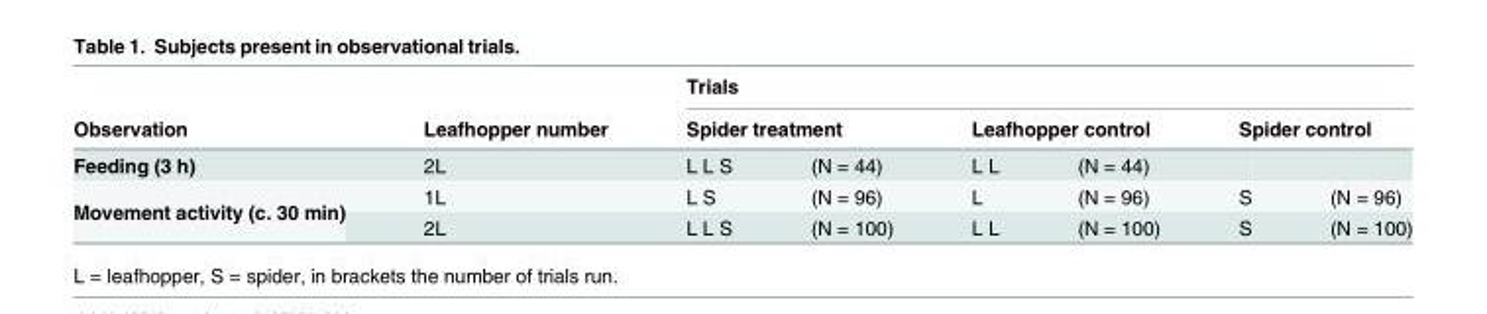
<table><thead><tr><td rowspan="3">Observation Feeding (3 h)</td><td rowspan="3">Leafhopper number 2L</td><td colspan="6">Trials</td></tr><tr><td colspan="2">Spider treatment</td><td colspan="2">Leafhopper control</td><td colspan="2">Spider control</td></tr><tr><td>L L S</td><td>(N = 44)</td><td>L L</td><td>(N = 44)</td><td></td><td></td></tr></thead><tbody><tr><td rowspan="2">Movement activity (c. 30 min)</td><td>1L</td><td>L S</td><td>(N = 96)</td><td>L</td><td>(N = 96)</td><td>S</td><td>(N = 96)</td></tr><tr><td>2L</td><td>L L S</td><td>(N = 100)</td><td>L L</td><td>(N = 100)</td><td>S</td><td>(N = 100)</td></tr></tbody></table>